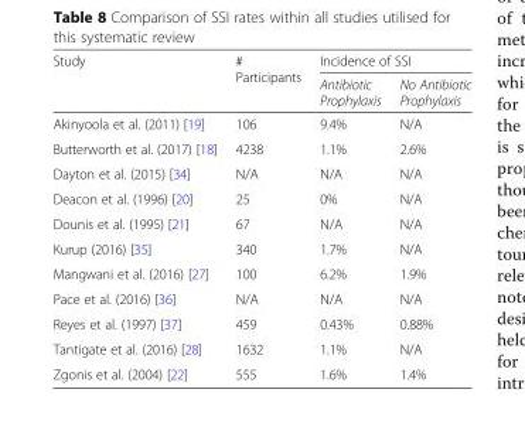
<table><thead><tr><td rowspan="2">Study</td><td rowspan="2"># Participants</td><td colspan="2">Incidence of SSI</td></tr><tr><td>Antibiotic Prophylaxis</td><td>No Antibiotic Prophylaxis</td></tr></thead><tbody><tr><td>Akinyoola et al. (2011) [19]</td><td>106</td><td>9.4%</td><td>N/A</td></tr><tr><td>Butterworth et al. (2017) [18]</td><td>4238</td><td>1.1%</td><td>2.6%</td></tr><tr><td>Dayton et al. (2015) [34]</td><td>N/A</td><td>N/A</td><td>N/A</td></tr><tr><td>Deacon et al. (1996) [20]</td><td>25</td><td>0%</td><td>N/A</td></tr><tr><td>Dounis et al. (1995) [21]</td><td>67</td><td>N/A</td><td>N/A</td></tr><tr><td>Kurup (2016) [35]</td><td>340</td><td>1.7%</td><td>N/A</td></tr><tr><td>Mangwani et al. (2016) [27]</td><td>100</td><td>6.2%</td><td>1.9%</td></tr><tr><td>Pace et al. (2016) [36]</td><td>N/A</td><td>N/A</td><td>N/A</td></tr><tr><td>Reyes et al. (1997) [37]</td><td>459</td><td>0.43%</td><td>0.88%</td></tr><tr><td>Tantigate et al. (2016) [28]</td><td>1632</td><td>1.1%</td><td>N/A</td></tr><tr><td>Zgonis et al. (2004) [22]</td><td>555</td><td>1.6%</td><td>1.4%</td></tr></tbody></table>